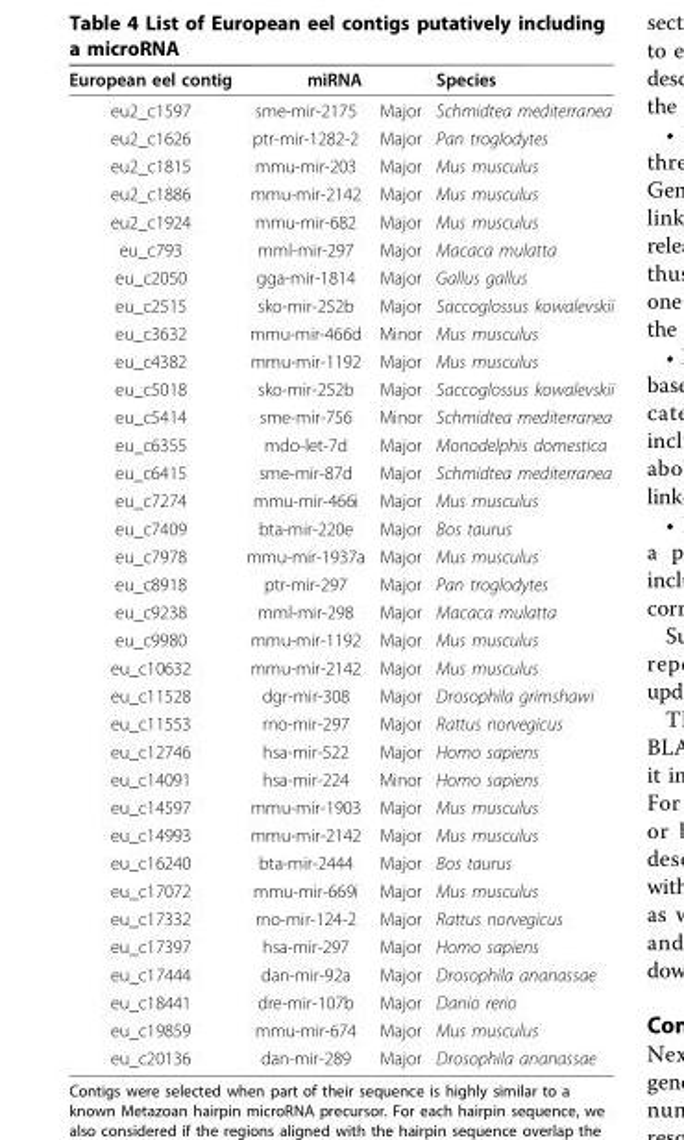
<table><thead><tr><td rowspan="2">European eel contig eu2_c1597</td><td colspan="2">miRNA</td><td rowspan="2">Species Schmidtea mediterranea</td></tr><tr><td>sme-mir-2175</td><td>Major</td></tr></thead><tbody><tr><td>eu2_c1626</td><td>ptr-mir-1282-2</td><td>Major</td><td>Pan troglodytes</td></tr><tr><td>eu2_c1815</td><td>mmu-mir-203</td><td>Major</td><td>Mus musculus</td></tr><tr><td>eu2_c1886</td><td>mmu-mir-2142</td><td>Major</td><td>Mus musculus</td></tr><tr><td>eu2_c1924</td><td>mmu-mir-682</td><td>Major</td><td>Mus musculus</td></tr><tr><td>eu_c793</td><td>mml-mir-297</td><td>Major</td><td>Macaca mulatta</td></tr><tr><td>eu_c2050</td><td>gga-mir-1814</td><td>Major</td><td>Gallus gallus</td></tr><tr><td>eu_c2515</td><td>sko-mir-252b</td><td>Major</td><td>Saccoglossus kowalevskii</td></tr><tr><td>eu_c3632</td><td>mmu-mir-466d</td><td>Minor</td><td>Mus musculus</td></tr><tr><td>eu_c4382</td><td>mmu-mir-1192</td><td>Major</td><td>Mus musculus</td></tr><tr><td>eu_c5018</td><td>sko-mir-252b</td><td>Major</td><td>Saccoglossus kowalevskii</td></tr><tr><td>eu_c5414</td><td>sme-mir-756</td><td>Minor</td><td>Schmidtea mediterranea</td></tr><tr><td>eu_c6355</td><td>mdo-let-7d</td><td>Major</td><td>Monodelphis domestica</td></tr><tr><td>eu_c6415</td><td>sme-mir-87d</td><td>Major</td><td>Schmidtea mediterranea</td></tr><tr><td>eu_c7274</td><td>mmu-mir-466i</td><td>Major</td><td>Mus musculus</td></tr><tr><td>eu_c7409</td><td>bta-mir-220e</td><td>Major</td><td>Bos taurus</td></tr><tr><td>eu_c7978</td><td>mmu-mir-1937a</td><td>Major</td><td>Mus musculus</td></tr><tr><td>eu_c8918</td><td>ptr-mir-297</td><td>Major</td><td>Pan troglodytes</td></tr><tr><td>eu_c9238</td><td>mml-mir-298</td><td>Major</td><td>Macaca mulatta</td></tr><tr><td>eu_c9980</td><td>mmu-mir-1192</td><td>Major</td><td>Mus musculus</td></tr><tr><td>eu_c10632</td><td>mmu-mir-2142</td><td>Major</td><td>Mus musculus</td></tr><tr><td>eu_c11528</td><td>dgr-mir-308</td><td>Major</td><td>Drosophila grimshawi</td></tr><tr><td>eu_c11553</td><td>rno-mir-297</td><td>Major</td><td>Rattus norvegicus</td></tr><tr><td>eu_c12746</td><td>hsa-mir-522</td><td>Major</td><td>Homo sapiens</td></tr><tr><td>eu_c14091</td><td>hsa-mir-224</td><td>Minor</td><td>Homo sapiens</td></tr><tr><td>eu_c14597</td><td>mmu-mir-1903</td><td>Major</td><td>Mus musculus</td></tr><tr><td>eu_c14993</td><td>mmu-mir-2142</td><td>Major</td><td>Mus musculus</td></tr><tr><td>eu_c16240</td><td>bta-mir-2444</td><td>Major</td><td>Bos taurus</td></tr><tr><td>eu_c17072</td><td>mmu-mir-669i</td><td>Major</td><td>Mus musculus</td></tr><tr><td>eu_c17332</td><td>rno-mir-124-2</td><td>Major</td><td>Rattus norvegicus</td></tr><tr><td>eu_c17397</td><td>hsa-mir-297</td><td>Major</td><td>Homo sapiens</td></tr><tr><td>eu_c17444</td><td>dan-mir-92a</td><td>Major</td><td>Drosophila ananassae</td></tr><tr><td>eu_c18441</td><td>dre-mir-107b</td><td>Major</td><td>Danio rerio</td></tr><tr><td>eu_c19859</td><td>mmu-mir-674</td><td>Major</td><td>Mus musculus</td></tr><tr><td>eu_c20136</td><td>dan-mir-289</td><td>Major</td><td>Drosophila ananassae</td></tr></tbody></table>